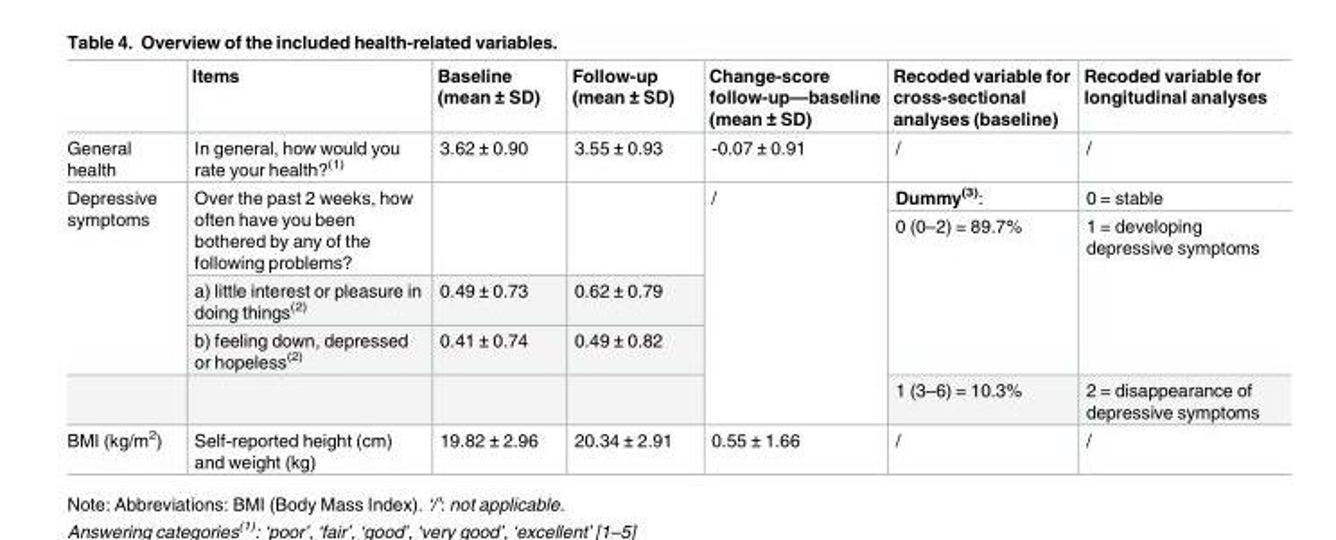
<table><thead><tr><td></td><td>Items</td><td>Baseline (mean ± SD)</td><td>Follow-up (mean ± SD)</td><td>Change-score follow-up—baseline (mean ± SD)</td><td>Recoded variable for cross-sectional analyses (baseline)</td><td>Recoded variable for longitudinal analyses</td></tr></thead><tbody><tr><td>General health</td><td>In general, how would you rate your health?<sup>(1)</sup></td><td>3.62 ± 0.90</td><td>3.55 ± 0.93</td><td>-0.07 ± 0.91</td><td>/</td><td>/</td></tr><tr><td rowspan="5">Depressive symptoms</td><td rowspan="2">Over the past 2 weeks, how often have you been bothered by any of the following problems?</td><td rowspan="2"></td><td rowspan="2"></td><td rowspan="5">/</td><td>Dummy<sup>(3)</sup>:</td><td>0 = stable</td></tr><tr><td rowspan="3">0 (0–2) = 89.7%</td><td rowspan="3">1 = developing depressive symptoms</td></tr><tr><td>a) little interest or pleasure in doing things<sup>(2)</sup></td><td>0.49 ± 0.73</td><td>0.62 ± 0.79</td></tr><tr><td>b) feeling down, depressed or hopeless<sup>(2)</sup></td><td>0.41 ± 0.74</td><td>0.49 ± 0.82</td></tr><tr><td></td><td></td><td></td><td>1 (3–6) = 10.3%</td><td>2 = disappearance of depressive symptoms</td></tr><tr><td>BMI (kg/m<sup>2</sup>)</td><td>Self-reported height (cm) and weight (kg)</td><td>19.82 ± 2.96</td><td>20.34 ± 2.91</td><td>0.55 ± 1.66</td><td>/</td><td>/</td></tr></tbody></table>